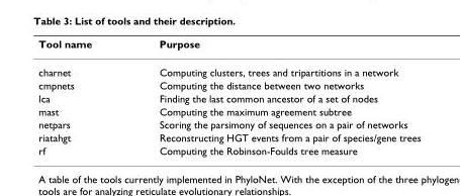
<table><thead><tr><td>Tool name</td><td>Purpose</td></tr></thead><tbody><tr><td>charnet</td><td>Computing clusters, trees and tripartitions in a network</td></tr><tr><td>cmpnets</td><td>Computing the distance between two networks</td></tr><tr><td>lca</td><td>Finding the last common ancestor of a set of nodes</td></tr><tr><td>mast</td><td>Computing the maximum agreement subtree</td></tr><tr><td>netpars</td><td>Scoring the parsimony of sequences on a pair of networks</td></tr><tr><td>riatahgt</td><td>Reconstructing HGT events from a pair of species/gene trees</td></tr><tr><td>rf</td><td>Computing the Robinson-Foulds tree measure</td></tr></tbody></table>